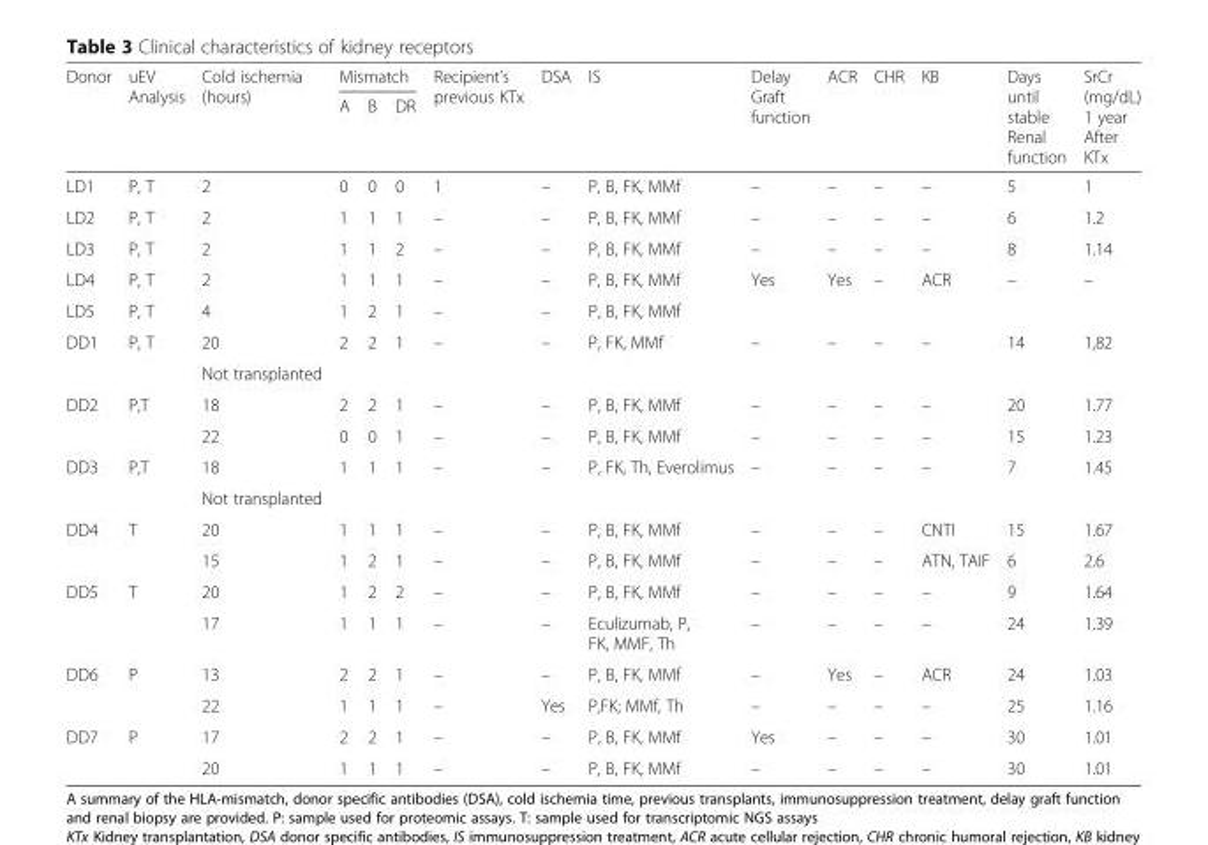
<table><thead><tr><td rowspan="2">Donor</td><td rowspan="2">uEV Analysis</td><td rowspan="2">Cold ischemia (hours)</td><td colspan="3">Mismatch</td><td rowspan="2">Recipient’s previous KTx</td><td rowspan="2">DSA</td><td rowspan="2">IS</td><td rowspan="2">Delay Graft function</td><td rowspan="2">ACR</td><td rowspan="2">CHR</td><td rowspan="2">KB</td><td rowspan="2">Days until stable Renal function</td><td rowspan="2">SrCr (mg/dL) 1 year After KTx</td></tr><tr><td>A</td><td>B</td><td>DR</td></tr></thead><tbody><tr><td>LD1</td><td>P, T</td><td>2</td><td>0</td><td>0</td><td>0</td><td>1</td><td>–</td><td>P, B, FK, MMf</td><td>–</td><td>–</td><td>–</td><td>–</td><td>5</td><td>1</td></tr><tr><td>LD2</td><td>P, T</td><td>2</td><td>1</td><td>1</td><td>1</td><td>–</td><td>–</td><td>P, B, FK, MMf</td><td>–</td><td>–</td><td>–</td><td>–</td><td>6</td><td>1.2</td></tr><tr><td>LD3</td><td>P, T</td><td>2</td><td>1</td><td>1</td><td>2</td><td>–</td><td>–</td><td>P, B, FK, MMf</td><td>–</td><td>–</td><td>–</td><td>–</td><td>8</td><td>1.14</td></tr><tr><td>LD4</td><td>P, T</td><td>2</td><td>1</td><td>1</td><td>1</td><td>–</td><td>–</td><td>P, B, FK, MMf</td><td>Yes</td><td>Yes</td><td>–</td><td>ACR</td><td>–</td><td>–</td></tr><tr><td>LD5</td><td>P, T</td><td>4</td><td>1</td><td>2</td><td>1</td><td>–</td><td>–</td><td>P, B, FK, MMf</td><td></td><td></td><td></td><td></td><td></td><td></td></tr><tr><td rowspan="2">DD1</td><td rowspan="2">P, T</td><td>20</td><td>2</td><td>2</td><td>1</td><td>–</td><td>–</td><td>P, FK, MMf</td><td>–</td><td>–</td><td>–</td><td>–</td><td>14</td><td>1,82</td></tr><tr><td>Not transplanted</td><td></td><td></td><td></td><td></td><td></td><td></td><td></td><td></td><td></td><td></td><td></td><td></td></tr><tr><td rowspan="2">DD2</td><td rowspan="2">P,T</td><td>18</td><td>2</td><td>2</td><td>1</td><td>–</td><td>–</td><td>P, B, FK, MMf</td><td>–</td><td>–</td><td>–</td><td>–</td><td>20</td><td>1.77</td></tr><tr><td>22</td><td>0</td><td>0</td><td>1</td><td>–</td><td>–</td><td>P, B, FK, MMf</td><td>–</td><td>–</td><td>–</td><td>–</td><td>15</td><td>1.23</td></tr><tr><td rowspan="2">DD3</td><td rowspan="2">P,T</td><td>18</td><td>1</td><td>1</td><td>1</td><td>–</td><td>–</td><td>P, FK, Th, Everolimus</td><td>–</td><td>–</td><td>–</td><td>–</td><td>7</td><td>1.45</td></tr><tr><td>Not transplanted</td><td></td><td></td><td></td><td></td><td></td><td></td><td></td><td></td><td></td><td></td><td></td><td></td></tr><tr><td rowspan="2">DD4</td><td rowspan="2">T</td><td>20</td><td>1</td><td>1</td><td>1</td><td>–</td><td>–</td><td>P, B, FK, MMf</td><td>–</td><td>–</td><td>–</td><td>CNTI</td><td>15</td><td>1.67</td></tr><tr><td>15</td><td>1</td><td>2</td><td>1</td><td>–</td><td>–</td><td>P, B, FK, MMf</td><td>–</td><td>–</td><td>–</td><td>ATN, TAIF</td><td>6</td><td>2.6</td></tr><tr><td rowspan="2">DD5</td><td rowspan="2">T</td><td>20</td><td>1</td><td>2</td><td>2</td><td>–</td><td>–</td><td>P, B, FK, MMf</td><td>–</td><td>–</td><td>–</td><td>–</td><td>9</td><td>1.64</td></tr><tr><td>17</td><td>1</td><td>1</td><td>1</td><td>–</td><td>–</td><td>Eculizumab, P, FK, MMF, Th</td><td>–</td><td>–</td><td>–</td><td>–</td><td>24</td><td>1.39</td></tr><tr><td rowspan="2">DD6</td><td rowspan="2">P</td><td>13</td><td>2</td><td>2</td><td>1</td><td>–</td><td>–</td><td>P, B, FK, MMf</td><td>–</td><td>Yes</td><td>–</td><td>ACR</td><td>24</td><td>1.03</td></tr><tr><td>22</td><td>1</td><td>1</td><td>1</td><td>–</td><td>Yes</td><td>P,FK; MMf, Th</td><td>–</td><td>–</td><td>–</td><td>–</td><td>25</td><td>1.16</td></tr><tr><td rowspan="2">DD7</td><td rowspan="2">P</td><td>17</td><td>2</td><td>2</td><td>1</td><td>–</td><td>–</td><td>P, B, FK, MMf</td><td>Yes</td><td>–</td><td>–</td><td>–</td><td>30</td><td>1.01</td></tr><tr><td>20</td><td>1</td><td>1</td><td>1</td><td>–</td><td>–</td><td>P, B, FK, MMf</td><td>–</td><td>–</td><td>–</td><td>–</td><td>30</td><td>1.01</td></tr></tbody></table>